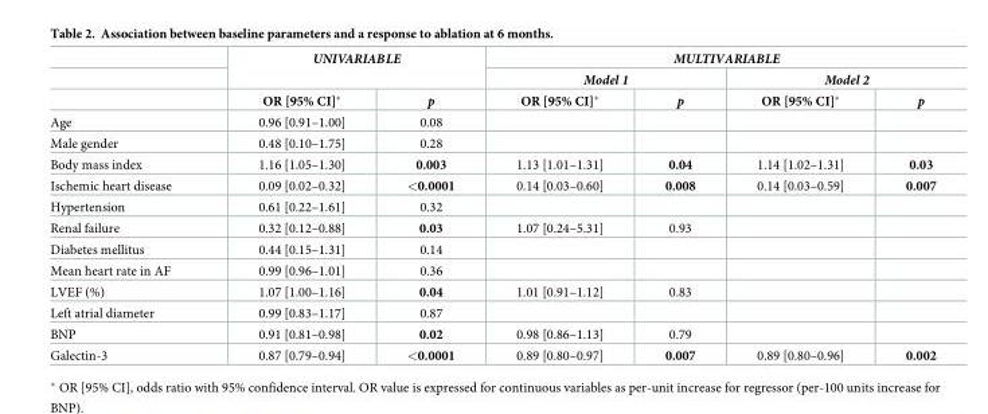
<table><thead><tr><td rowspan="3"></td><td rowspan="2" colspan="2">UNIVARIABLE</td><td colspan="4">MULTIVARIABLE</td></tr><tr><td colspan="2">Model 1</td><td colspan="2">Model 2</td></tr><tr><td>OR [95% CI]*</td><td>p</td><td>OR [95% CI]*</td><td>p</td><td>OR [95% CI]*</td><td>p</td></tr></thead><tbody><tr><td>Age</td><td>0.96 [0.91–1.00]</td><td>0.08</td><td></td><td></td><td></td><td></td></tr><tr><td>Male gender</td><td>0.48 [0.10–1.75]</td><td>0.28</td><td></td><td></td><td></td><td></td></tr><tr><td>Body mass index</td><td>1.16 [1.05–1.30]</td><td>0.003</td><td>1.13 [1.01–1.31]</td><td>0.04</td><td>1.14 [1.02–1.31]</td><td>0.03</td></tr><tr><td>Ischemic heart disease</td><td>0.09 [0.02–0.32]</td><td>&lt;0.0001</td><td>0.14 [0.03–0.60]</td><td>0.008</td><td>0.14 [0.03–0.59]</td><td>0.007</td></tr><tr><td>Hypertension</td><td>0.61 [0.22–1.61]</td><td>0.32</td><td></td><td></td><td></td><td></td></tr><tr><td>Renal failure</td><td>0.32 [0.12–0.88]</td><td>0.03</td><td>1.07 [0.24–5.31]</td><td>0.93</td><td></td><td></td></tr><tr><td>Diabetes mellitus</td><td>0.44 [0.15–1.31]</td><td>0.14</td><td></td><td></td><td></td><td></td></tr><tr><td>Mean heart rate in AF</td><td>0.99 [0.96–1.01]</td><td>0.36</td><td></td><td></td><td></td><td></td></tr><tr><td>LVEF (%)</td><td>1.07 [1.00–1.16]</td><td>0.04</td><td>1.01 [0.91–1.12]</td><td>0.83</td><td></td><td></td></tr><tr><td>Left atrial diameter</td><td>0.99 [0.83–1.17]</td><td>0.87</td><td></td><td></td><td></td><td></td></tr><tr><td>BNP</td><td>0.91 [0.81–0.98]</td><td>0.02</td><td>0.98 [0.86–1.13]</td><td>0.79</td><td></td><td></td></tr><tr><td>Galectin-3</td><td>0.87 [0.79–0.94]</td><td>&lt;0.0001</td><td>0.89 [0.80–0.97]</td><td>0.007</td><td>0.89 [0.80–0.96]</td><td>0.002</td></tr></tbody></table>